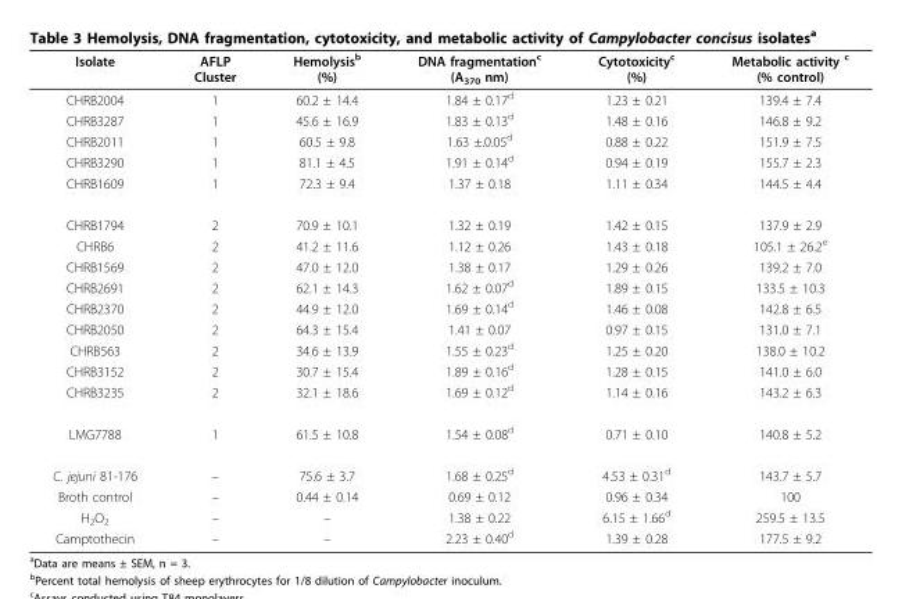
<table><thead><tr><td>Isolate</td><td>AFLP Cluster</td><td>Hemolysis<sup>b</sup> (%)</td><td>DNA fragmentation<sup>c</sup> (A<sub>370</sub> nm)</td><td>Cytotoxicity<sup>c</sup> (%)</td><td>Metabolic activity <sup>c</sup> (% control)</td></tr></thead><tbody><tr><td>CHRB2004</td><td>1</td><td>60.2 ± 14.4</td><td>1.84 ± 0.17<sup>d</sup></td><td>1.23 ± 0.21</td><td>139.4 ± 7.4</td></tr><tr><td>CHRB3287</td><td>1</td><td>45.6 ± 16.9</td><td>1.83 ± 0.13<sup>d</sup></td><td>1.48 ± 0.16</td><td>146.8 ± 9.2</td></tr><tr><td>CHRB2011</td><td>1</td><td>60.5 ± 9.8</td><td>1.63 ±.0.05<sup>d</sup></td><td>0.88 ± 0.22</td><td>151.9 ± 7.5</td></tr><tr><td>CHRB3290</td><td>1</td><td>81.1 ± 4.5</td><td>1.91 ± 0.14<sup>d</sup></td><td>0.94 ± 0.19</td><td>155.7 ± 2.3</td></tr><tr><td>CHRB1609</td><td>1</td><td>72.3 ± 9.4</td><td>1.37 ± 0.18</td><td>1.11 ± 0.34</td><td>144.5 ± 4.4</td></tr><tr><td>CHRB1794</td><td>2</td><td>70.9 ± 10.1</td><td>1.32 ± 0.19</td><td>1.42 ± 0.15</td><td>137.9 ± 2.9</td></tr><tr><td>CHRB6</td><td>2</td><td>41.2 ± 11.6</td><td>1.12 ± 0.26</td><td>1.43 ± 0.18</td><td>105.1 ± 26.2<sup>e</sup></td></tr><tr><td>CHRB1569</td><td>2</td><td>47.0 ± 12.0</td><td>1.38 ± 0.17</td><td>1.29 ± 0.26</td><td>139.2 ± 7.0</td></tr><tr><td>CHRB2691</td><td>2</td><td>62.1 ± 14.3</td><td>1.62 ± 0.07<sup>d</sup></td><td>1.89 ± 0.15</td><td>133.5 ± 10.3</td></tr><tr><td>CHRB2370</td><td>2</td><td>44.9 ± 12.0</td><td>1.69 ± 0.14<sup>d</sup></td><td>1.46 ± 0.08</td><td>142.8 ± 6.5</td></tr><tr><td>CHRB2050</td><td>2</td><td>64.3 ± 15.4</td><td>1.41 ± 0.07</td><td>0.97 ± 0.15</td><td>131.0 ± 7.1</td></tr><tr><td>CHRB563</td><td>2</td><td>34.6 ± 13.9</td><td>1.55 ± 0.23<sup>d</sup></td><td>1.25 ± 0.20</td><td>138.0 ± 10.2</td></tr><tr><td>CHRB3152</td><td>2</td><td>30.7 ± 15.4</td><td>1.89 ± 0.16<sup>d</sup></td><td>1.28 ± 0.15</td><td>141.0 ± 6.0</td></tr><tr><td>CHRB3235</td><td>2</td><td>32.1 ± 18.6</td><td>1.69 ± 0.12<sup>d</sup></td><td>1.14 ± 0.16</td><td>143.2 ± 6.3</td></tr><tr><td>LMG7788</td><td>1</td><td>61.5 ± 10.8</td><td>1.54 ± 0.08<sup>d</sup></td><td>0.71 ± 0.10</td><td>140.8 ± 5.2</td></tr><tr><td>C. jejuni 81-176</td><td>–</td><td>75.6 ± 3.7</td><td>1.68 ± 0.25<sup>d</sup></td><td>4.53 ± 0.31<sup>d</sup></td><td>143.7 ± 5.7</td></tr><tr><td>Broth control</td><td>–</td><td>0.44 ± 0.14</td><td>0.69 ± 0.12</td><td>0.96 ± 0.34</td><td>100</td></tr><tr><td>H<sub>2</sub>O<sub>2</sub></td><td>–</td><td>–</td><td>1.38 ± 0.22</td><td>6.15 ± 1.66<sup>d</sup></td><td>259.5 ± 13.5</td></tr><tr><td>Camptothecin</td><td>–</td><td>–</td><td>2.23 ± 0.40<sup>d</sup></td><td>1.39 ± 0.28</td><td>177.5 ± 9.2</td></tr></tbody></table>